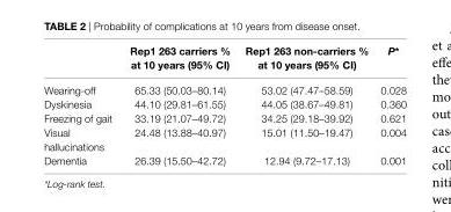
<table><thead><tr><td></td><td>rep1 263 carriers % at 10 years (95% ci)</td><td>rep1 263 non-carriers % at 10 years (95% ci)</td><td>P*</td></tr></thead><tbody><tr><td>Wearing-off</td><td>65.33 (50.03–80.14)</td><td>53.02 (47.47–58.59)</td><td>0.028</td></tr><tr><td>Dyskinesia</td><td>44.10 (29.81–61.55)</td><td>44.05 (38.67–49.81)</td><td>0.360</td></tr><tr><td>Freezing of gait</td><td>33.19 (21.07–49.72)</td><td>34.25 (29.18–39.92)</td><td>0.621</td></tr><tr><td>Visual hallucinations</td><td>24.48 (13.88–40.97)</td><td>15.01 (11.50–19.47)</td><td>0.004</td></tr><tr><td>Dementia</td><td>26.39 (15.50–42.72)</td><td>12.94 (9.72–17.13)</td><td>0.001</td></tr></tbody></table>